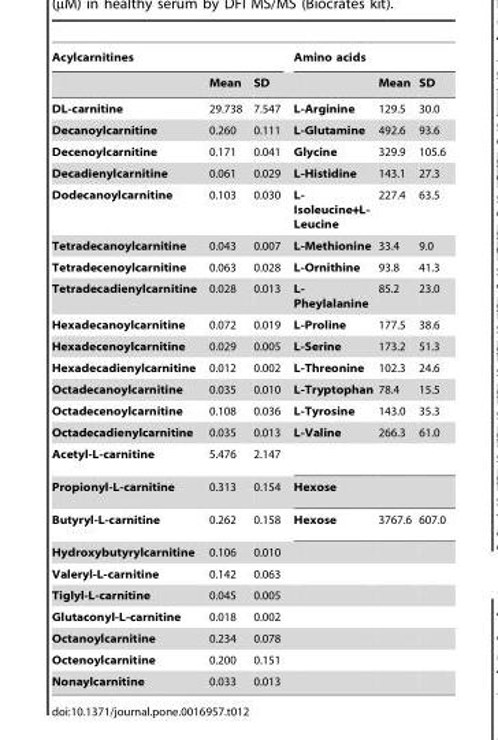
<table><thead><tr><td colspan="3">Acylcarnitines</td><td colspan="3">Amino acids</td></tr><tr><td></td><td>Mean</td><td>SD</td><td></td><td>Mean</td><td>SD</td></tr></thead><tbody><tr><td>DL-carnitine</td><td>29.738</td><td>7.547</td><td>L-Arginine</td><td>129.5</td><td>30.0</td></tr><tr><td>Decanoylcarnitine</td><td>0.260</td><td>0.111</td><td>L-Glutamine</td><td>492.6</td><td>93.6</td></tr><tr><td>Decenoylcarnitine</td><td>0.171</td><td>0.041</td><td>Glycine</td><td>329.9</td><td>105.6</td></tr><tr><td>Decadienylcarnitine</td><td>0.061</td><td>0.029</td><td>L-Histidine</td><td>143.1</td><td>27.3</td></tr><tr><td>Dodecanoylcarnitine</td><td>0.103</td><td>0.030</td><td>L- Isoleucine+L- Leucine</td><td>227.4</td><td>63.5</td></tr><tr><td>Tetradecanoylcarnitine</td><td>0.043</td><td>0.007</td><td>L-Methionine</td><td>33.4</td><td>9.0</td></tr><tr><td>Tetradecenoylcarnitine</td><td>0.063</td><td>0.028</td><td>L-Ornithine</td><td>93.8</td><td>41.3</td></tr><tr><td>Tetradecadienylcarnitine</td><td>0.028</td><td>0.013</td><td>L- Pheylalanine</td><td>85.2</td><td>23.0</td></tr><tr><td>Hexadecanoylcarnitine</td><td>0.072</td><td>0.019</td><td>L-Proline</td><td>177.5</td><td>38.6</td></tr><tr><td>Hexadecenoylcarnitine</td><td>0.029</td><td>0.005</td><td>L-Serine</td><td>173.2</td><td>51.3</td></tr><tr><td>Hexadecadienylcarnitine</td><td>0.012</td><td>0.002</td><td>L-Threonine</td><td>102.3</td><td>24.6</td></tr><tr><td>Octadecanoylcarnitine</td><td>0.035</td><td>0.010</td><td>L-Tryptophan</td><td>78.4</td><td>15.5</td></tr><tr><td>Octadecenoylcarnitine</td><td>0.108</td><td>0.036</td><td>L-Tyrosine</td><td>143.0</td><td>35.3</td></tr><tr><td>Octadecadienylcarnitine</td><td>0.035</td><td>0.013</td><td>L-Valine</td><td>266.3</td><td>61.0</td></tr><tr><td>Acetyl-L-carnitine</td><td>5.476</td><td>2.147</td><td></td><td></td><td></td></tr><tr><td>Propionyl-L-carnitine</td><td>0.313</td><td>0.154</td><td colspan="3">Hexose</td></tr><tr><td>Butyryl-L-carnitine</td><td>0.262</td><td>0.158</td><td>Hexose</td><td>3767.6</td><td>607.0</td></tr><tr><td>Hydroxybutyrylcarnitine</td><td>0.106</td><td>0.010</td><td></td><td></td><td></td></tr><tr><td>Valeryl-L-carnitine</td><td>0.142</td><td>0.063</td><td></td><td></td><td></td></tr><tr><td>Tiglyl-L-carnitine</td><td>0.045</td><td>0.005</td><td></td><td></td><td></td></tr><tr><td>Glutaconyl-L-carnitine</td><td>0.018</td><td>0.002</td><td></td><td></td><td></td></tr><tr><td>Octanoylcarnitine</td><td>0.234</td><td>0.078</td><td></td><td></td><td></td></tr><tr><td>Octenoylcarnitine</td><td>0.200</td><td>0.151</td><td></td><td></td><td></td></tr><tr><td>Nonaylcarnitine</td><td>0.033</td><td>0.013</td><td></td><td></td><td></td></tr></tbody></table>